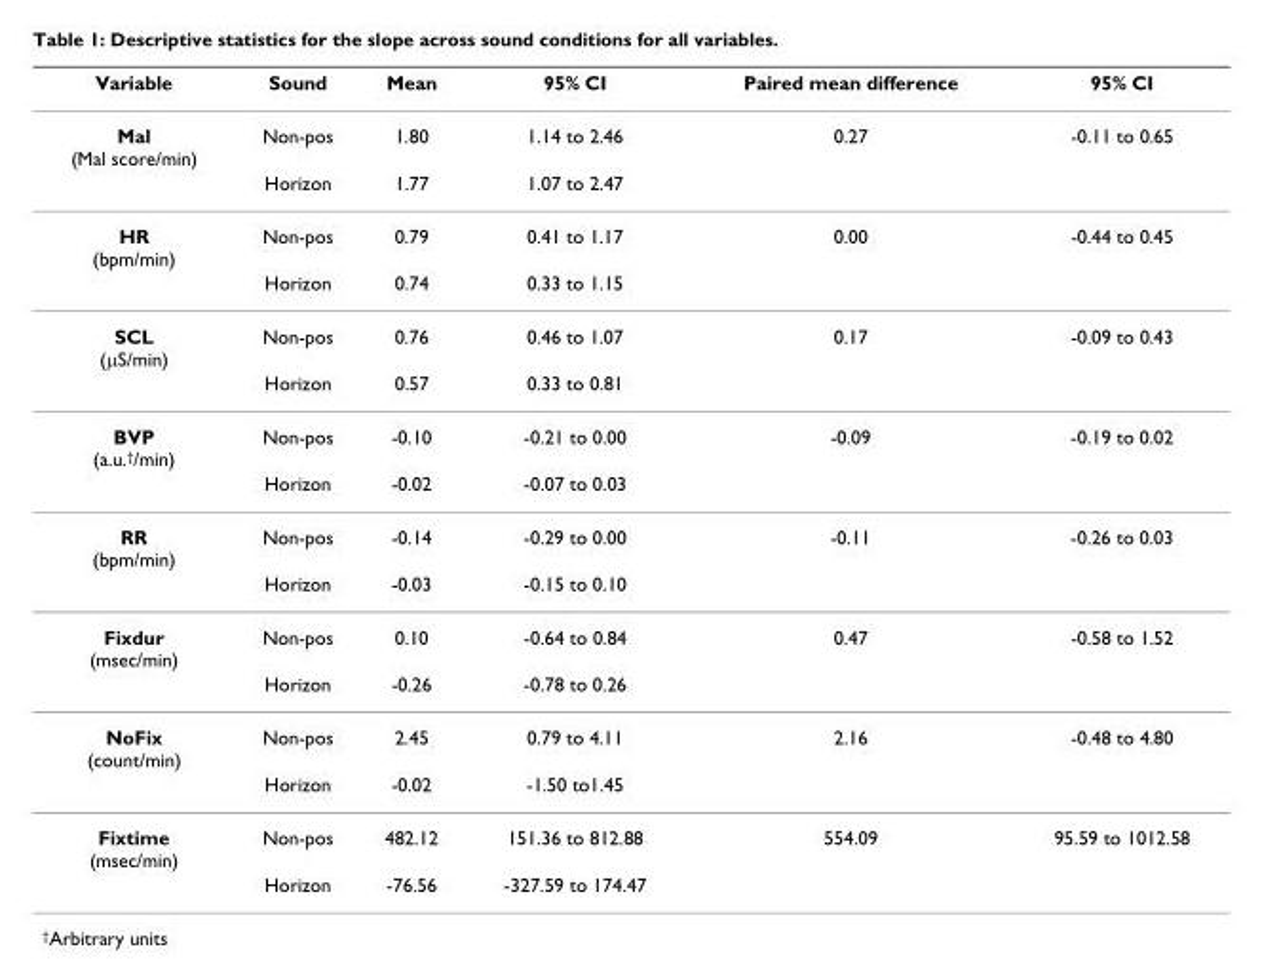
<table><thead><tr><td>Variable</td><td>Sound</td><td>Mean</td><td>95% CI</td><td>Paired mean difference</td><td>95% CI</td></tr></thead><tbody><tr><td rowspan="2">Mal (Mal score/min)</td><td>Non-pos</td><td>1.80</td><td>1.14 to 2.46</td><td>0.27</td><td>-0.11 to 0.65</td></tr><tr><td>Horizon</td><td>1.77</td><td>1.07 to 2.47</td><td></td><td></td></tr><tr><td rowspan="2">HR (bpm/min)</td><td>Non-pos</td><td>0.79</td><td>0.41 to 1.17</td><td>0.00</td><td>-0.44 to 0.45</td></tr><tr><td>Horizon</td><td>0.74</td><td>0.33 to 1.15</td><td></td><td></td></tr><tr><td rowspan="2">SCL (μS/min)</td><td>Non-pos</td><td>0.76</td><td>0.46 to 1.07</td><td>0.17</td><td>-0.09 to 0.43</td></tr><tr><td>Horizon</td><td>0.57</td><td>0.33 to 0.81</td><td></td><td></td></tr><tr><td rowspan="2">BVP (a.u.<sup>†</sup>/min)</td><td>Non-pos</td><td>-0.10</td><td>-0.21 to 0.00</td><td>-0.09</td><td>-0.19 to 0.02</td></tr><tr><td>Horizon</td><td>-0.02</td><td>-0.07 to 0.03</td><td></td><td></td></tr><tr><td rowspan="2">RR (bpm/min)</td><td>Non-pos</td><td>-0.14</td><td>-0.29 to 0.00</td><td>-0.11</td><td>-0.26 to 0.03</td></tr><tr><td>Horizon</td><td>-0.03</td><td>-0.15 to 0.10</td><td></td><td></td></tr><tr><td rowspan="2">Fixdur (msec/min)</td><td>Non-pos</td><td>0.10</td><td>-0.64 to 0.84</td><td>0.47</td><td>-0.58 to 1.52</td></tr><tr><td>Horizon</td><td>-0.26</td><td>-0.78 to 0.26</td><td></td><td></td></tr><tr><td rowspan="2">NoFix (count/min)</td><td>Non-pos</td><td>2.45</td><td>0.79 to 4.11</td><td>2.16</td><td>-0.48 to 4.80</td></tr><tr><td>Horizon</td><td>-0.02</td><td>-1.50 to1.45</td><td></td><td></td></tr><tr><td rowspan="2">Fixtime (msec/min)</td><td>Non-pos</td><td>482.12</td><td>151.36 to 812.88</td><td>554.09</td><td>95.59 to 1012.58</td></tr><tr><td>Horizon</td><td>-76.56</td><td>-327.59 to 174.47</td><td></td><td></td></tr></tbody></table>